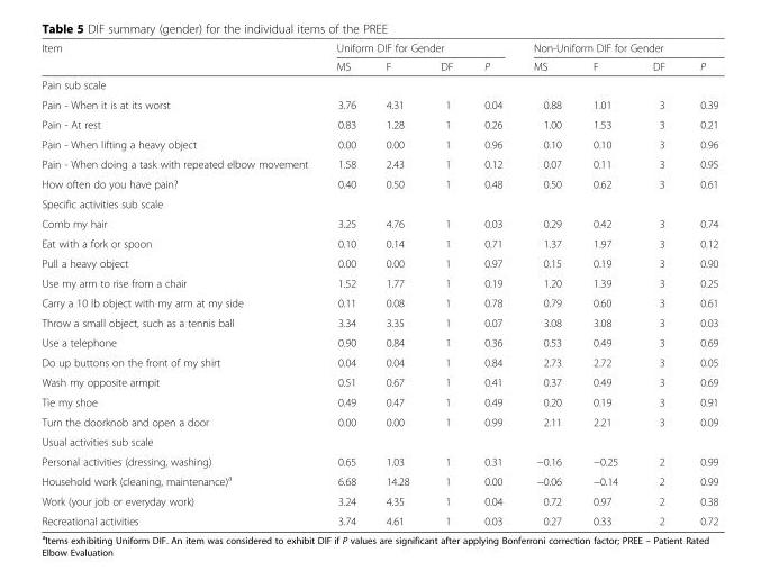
<table><thead><tr><td rowspan="2">Item</td><td colspan="4">Uniform DIF for Gender</td><td colspan="4">Non-Uniform DIF for Gender</td></tr><tr><td>MS</td><td>F</td><td>DF</td><td>P</td><td>MS</td><td>F</td><td>DF</td><td>P</td></tr></thead><tbody><tr><td colspan="9">Pain sub scale</td></tr><tr><td>Pain - When it is at its worst</td><td>3.76</td><td>4.31</td><td>1</td><td>0.04</td><td>0.88</td><td>1.01</td><td>3</td><td>0.39</td></tr><tr><td>Pain - At rest</td><td>0.83</td><td>1.28</td><td>1</td><td>0.26</td><td>1.00</td><td>1.53</td><td>3</td><td>0.21</td></tr><tr><td>Pain - When lifting a heavy object</td><td>0.00</td><td>0.00</td><td>1</td><td>0.96</td><td>0.10</td><td>0.10</td><td>3</td><td>0.96</td></tr><tr><td>Pain - When doing a task with repeated elbow movement</td><td>1.58</td><td>2.43</td><td>1</td><td>0.12</td><td>0.07</td><td>0.11</td><td>3</td><td>0.95</td></tr><tr><td>How often do you have pain?</td><td>0.40</td><td>0.50</td><td>1</td><td>0.48</td><td>0.50</td><td>0.62</td><td>3</td><td>0.61</td></tr><tr><td colspan="9">Specific activities sub scale</td></tr><tr><td>Comb my hair</td><td>3.25</td><td>4.76</td><td>1</td><td>0.03</td><td>0.29</td><td>0.42</td><td>3</td><td>0.74</td></tr><tr><td>Eat with a fork or spoon</td><td>0.10</td><td>0.14</td><td>1</td><td>0.71</td><td>1.37</td><td>1.97</td><td>3</td><td>0.12</td></tr><tr><td>Pull a heavy object</td><td>0.00</td><td>0.00</td><td>1</td><td>0.97</td><td>0.15</td><td>0.19</td><td>3</td><td>0.90</td></tr><tr><td>Use my arm to rise from a chair</td><td>1.52</td><td>1.77</td><td>1</td><td>0.19</td><td>1.20</td><td>1.39</td><td>3</td><td>0.25</td></tr><tr><td>Carry a 10 lb object with my arm at my side</td><td>0.11</td><td>0.08</td><td>1</td><td>0.78</td><td>0.79</td><td>0.60</td><td>3</td><td>0.61</td></tr><tr><td>Throw a small object, such as a tennis ball</td><td>3.34</td><td>3.35</td><td>1</td><td>0.07</td><td>3.08</td><td>3.08</td><td>3</td><td>0.03</td></tr><tr><td>Use a telephone</td><td>0.90</td><td>0.84</td><td>1</td><td>0.36</td><td>0.53</td><td>0.49</td><td>3</td><td>0.69</td></tr><tr><td>Do up buttons on the front of my shirt</td><td>0.04</td><td>0.04</td><td>1</td><td>0.84</td><td>2.73</td><td>2.72</td><td>3</td><td>0.05</td></tr><tr><td>Wash my opposite armpit</td><td>0.51</td><td>0.67</td><td>1</td><td>0.41</td><td>0.37</td><td>0.49</td><td>3</td><td>0.69</td></tr><tr><td>Tie my shoe</td><td>0.49</td><td>0.47</td><td>1</td><td>0.49</td><td>0.20</td><td>0.19</td><td>3</td><td>0.91</td></tr><tr><td>Turn the doorknob and open a door</td><td>0.00</td><td>0.00</td><td>1</td><td>0.99</td><td>2.11</td><td>2.21</td><td>3</td><td>0.09</td></tr><tr><td colspan="9">Usual activities sub scale</td></tr><tr><td>Personal activities (dressing, washing)</td><td>0.65</td><td>1.03</td><td>1</td><td>0.31</td><td>−0.16</td><td>−0.25</td><td>2</td><td>0.99</td></tr><tr><td>Household work (cleaning, maintenance)<sup>a</sup></td><td>6.68</td><td>14.28</td><td>1</td><td>0.00</td><td>−0.06</td><td>−0.14</td><td>2</td><td>0.99</td></tr><tr><td>Work (your job or everyday work)</td><td>3.24</td><td>4.35</td><td>1</td><td>0.04</td><td>0.72</td><td>0.97</td><td>2</td><td>0.38</td></tr><tr><td>Recreational activities</td><td>3.74</td><td>4.61</td><td>1</td><td>0.03</td><td>0.27</td><td>0.33</td><td>2</td><td>0.72</td></tr></tbody></table>